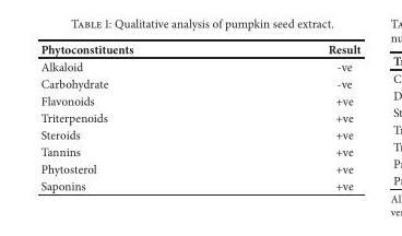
<table><thead><tr><td>Phytoconstituents</td><td>Result</td></tr></thead><tbody><tr><td>Alkaloid</td><td>-ve</td></tr><tr><td>Carbohydrate</td><td>-ve</td></tr><tr><td>Flavonoids</td><td>+ve</td></tr><tr><td>Triterpenoids</td><td>+ve</td></tr><tr><td>Steroids</td><td>+ve</td></tr><tr><td>Tannins</td><td>+ve</td></tr><tr><td>Phytosterol</td><td>+ve</td></tr><tr><td>Saponins</td><td>+ve</td></tr></tbody></table>